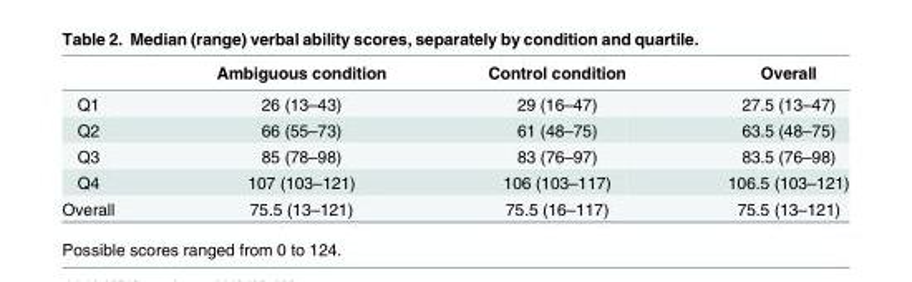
<table><thead><tr><td></td><td>Ambiguous condition</td><td>Control condition</td><td>Overall</td></tr></thead><tbody><tr><td>Q1</td><td>26 (13–43)</td><td>29 (16–47)</td><td>27.5 (13–47)</td></tr><tr><td>Q2</td><td>66 (55–73)</td><td>61 (48–75)</td><td>63.5 (48–75)</td></tr><tr><td>Q3</td><td>85 (78–98)</td><td>83 (76–97)</td><td>83.5 (76–98)</td></tr><tr><td>Q4</td><td>107 (103–121)</td><td>106 (103–117)</td><td>106.5 (103–121)</td></tr><tr><td>Overall</td><td>75.5 (13–121)</td><td>75.5 (16–117)</td><td>75.5 (13–121)</td></tr></tbody></table>